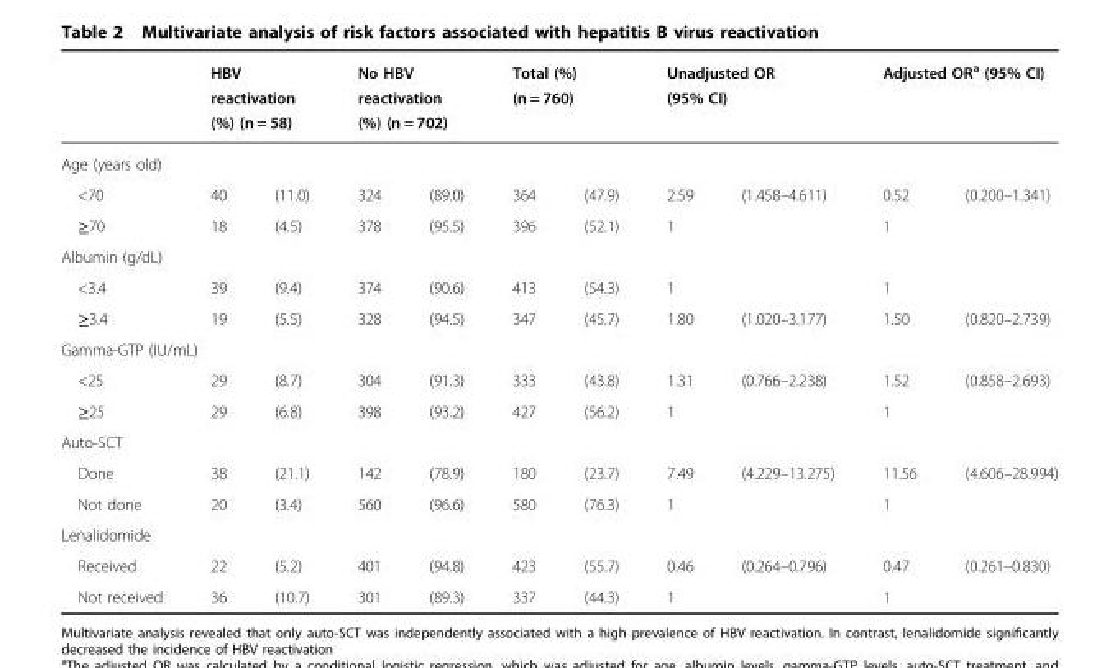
<table><thead><tr><td></td><td colspan="2">HBV reactivation (%) (n = 58)</td><td colspan="2">No HBV reactivation (%) (n = 702)</td><td colspan="2">Total (%) (n = 760)</td><td colspan="2">Unadjusted OR (95% CI)</td><td colspan="2">Adjusted OR<sup>a</sup> (95% CI)</td></tr><tr><td colspan="11">Age (years old)</td></tr><tr><td>&lt;70</td><td>40</td><td>(11.0)</td><td>324</td><td>(89.0)</td><td>364</td><td>(47.9)</td><td>2.59</td><td>(1.458–4.611)</td><td>0.52</td><td>(0.200–1.341)</td></tr></thead><tbody><tr><td>≥70</td><td>18</td><td>(4.5)</td><td>378</td><td>(95.5)</td><td>396</td><td>(52.1)</td><td>1</td><td></td><td>1</td><td></td></tr><tr><td colspan="11">Albumin (g/dL)</td></tr><tr><td>&lt;3.4</td><td>39</td><td>(9.4)</td><td>374</td><td>(90.6)</td><td>413</td><td>(54.3)</td><td>1</td><td></td><td>1</td><td></td></tr><tr><td>≥3.4</td><td>19</td><td>(5.5)</td><td>328</td><td>(94.5)</td><td>347</td><td>(45.7)</td><td>1.80</td><td>(1.020–3.177)</td><td>1.50</td><td>(0.820–2.739)</td></tr><tr><td colspan="11">Gamma-GTP (IU/mL)</td></tr><tr><td>&lt;25</td><td>29</td><td>(8.7)</td><td>304</td><td>(91.3)</td><td>333</td><td>(43.8)</td><td>1.31</td><td>(0.766–2.238)</td><td>1.52</td><td>(0.858–2.693)</td></tr><tr><td>≥25</td><td>29</td><td>(6.8)</td><td>398</td><td>(93.2)</td><td>427</td><td>(56.2)</td><td>1</td><td></td><td>1</td><td></td></tr><tr><td colspan="11">Auto-SCT</td></tr><tr><td>Done</td><td>38</td><td>(21.1)</td><td>142</td><td>(78.9)</td><td>180</td><td>(23.7)</td><td>7.49</td><td>(4.229–13.275)</td><td>11.56</td><td>(4.606–28.994)</td></tr><tr><td>Not done</td><td>20</td><td>(3.4)</td><td>560</td><td>(96.6)</td><td>580</td><td>(76.3)</td><td>1</td><td></td><td>1</td><td></td></tr><tr><td colspan="11">Lenalidomide</td></tr><tr><td>Received</td><td>22</td><td>(5.2)</td><td>401</td><td>(94.8)</td><td>423</td><td>(55.7)</td><td>0.46</td><td>(0.264–0.796)</td><td>0.47</td><td>(0.261–0.830)</td></tr><tr><td>Not received</td><td>36</td><td>(10.7)</td><td>301</td><td>(89.3)</td><td>337</td><td>(44.3)</td><td>1</td><td></td><td>1</td><td></td></tr></tbody></table>